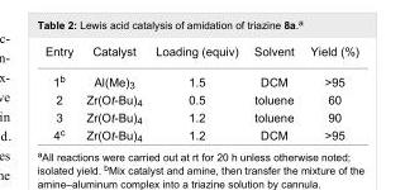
<table><tbody><tr><td>Entry</td><td>Catalyst</td><td>Loading (equiv)</td><td>Solvent</td><td>Yield (%)</td></tr><tr><td>1<sup>b</sup></td><td>Al(Me)<sub>3</sub></td><td>1.5</td><td>DCM</td><td>&gt;95</td></tr><tr><td>2</td><td>Zr(Ot-Bu)<sub>4</sub></td><td>0.5</td><td>toluene</td><td>60</td></tr><tr><td>3</td><td>Zr(Ot-Bu)<sub>4</sub></td><td>1.2</td><td>toluene</td><td>90</td></tr><tr><td>4<sup>c</sup></td><td>Zr(Ot-Bu)<sub>4</sub></td><td>1.2</td><td>DCM</td><td>&gt;95</td></tr></tbody></table>